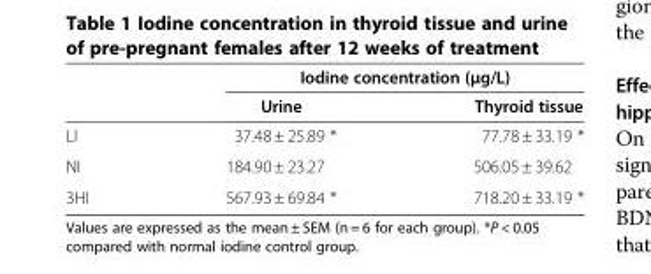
<table><thead><tr><td rowspan="2"></td><td colspan="2">Iodine concentration (μg/L)</td></tr><tr><td>Urine</td><td>Thyroid tissue</td></tr></thead><tbody><tr><td>LI</td><td>37.48 ± 25.89 *</td><td>77.78 ± 33.19 *</td></tr><tr><td>NI</td><td>184.90 ± 23.27</td><td>506.05 ± 39.62</td></tr><tr><td>3HI</td><td>567.93 ± 69.84 *</td><td>718.20 ± 33.19 *</td></tr></tbody></table>